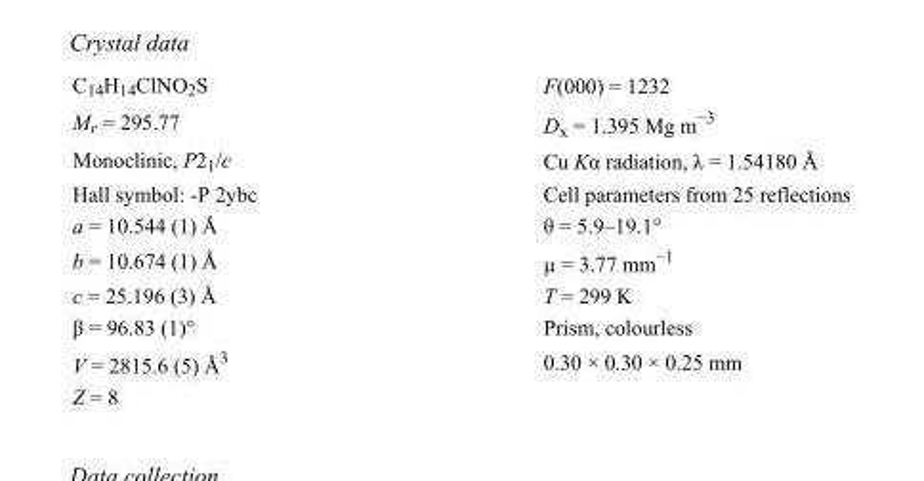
<table><tbody><tr><td>C<sub>14</sub>H<sub>14</sub>ClNO<sub>2</sub>S</td><td>F(000) = 1232</td></tr><tr><td>M<sub>r</sub> = 295.77</td><td>D<sub>x</sub> = 1.395 Mg m<sup>−3</sup></td></tr><tr><td>Monoclinic, P2<sub>1</sub>/c</td><td>Cu Kα radiation, λ = 1.54180 Å</td></tr><tr><td>Hall symbol: -P 2ybc</td><td>Cell parameters from 25 reflections</td></tr><tr><td>a = 10.544 (1) Å</td><td>θ = 5.9–19.1°</td></tr><tr><td>b = 10.674 (1) Å</td><td>µ = 3.77 mm<sup>−1</sup></td></tr><tr><td>c = 25.196 (3) Å</td><td>T = 299 K</td></tr><tr><td>β = 96.83 (1)°</td><td>Prism, colourless</td></tr><tr><td>V = 2815.6 (5) Å<sup>3</sup></td><td>0.30 × 0.30 × 0.25 mm</td></tr><tr><td>Z = 8</td><td></td></tr></tbody></table>